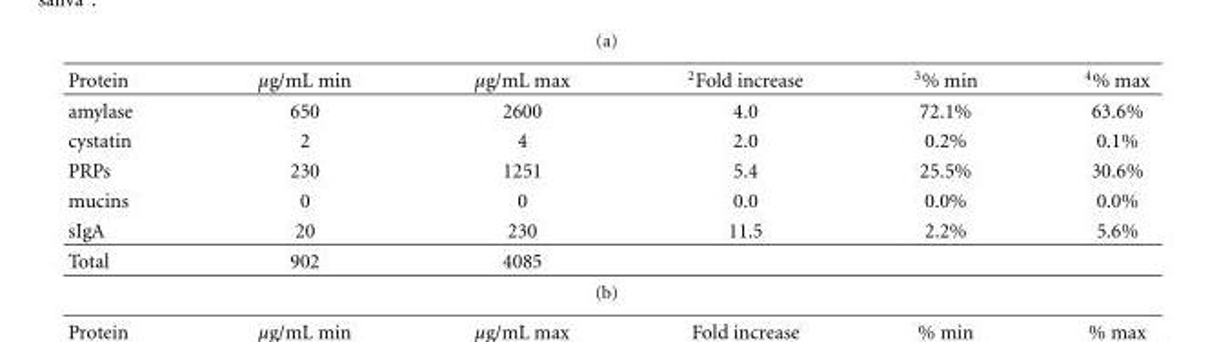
<table><thead><tr><td>Protein</td><td>μg/mL min</td><td>μg/mL max</td><td><sup>2</sup>Fold increase</td><td><sup>3</sup>% min</td><td><sup>4</sup>% max</td></tr></thead><tbody><tr><td>amylase</td><td>650</td><td>2600</td><td>4.0</td><td>72.1%</td><td>63.6%</td></tr><tr><td>cystatin</td><td>2</td><td>4</td><td>2.0</td><td>0.2%</td><td>0.1%</td></tr><tr><td>PRPs</td><td>230</td><td>1251</td><td>5.4</td><td>25.5%</td><td>30.6%</td></tr><tr><td>mucins</td><td>0</td><td>0</td><td>0.0</td><td>0.0%</td><td>0.0%</td></tr><tr><td>sIgA</td><td>20</td><td>230</td><td>11.5</td><td>2.2%</td><td>5.6%</td></tr><tr><td>Total</td><td>902</td><td>4085</td><td></td><td></td><td></td></tr></tbody></table>